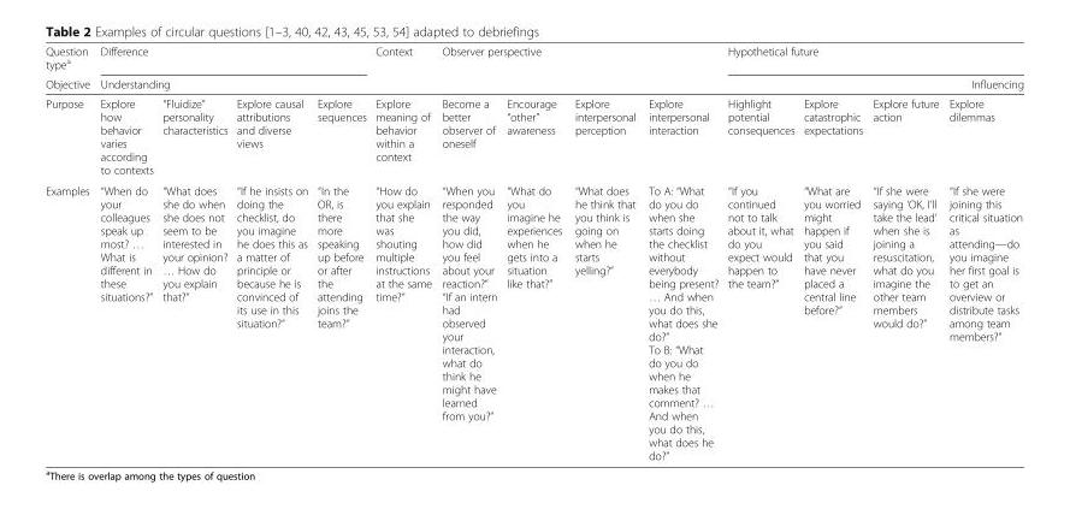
<table><thead><tr><td rowspan="3">Question type<sup>a</sup> Objective Purpose</td><td colspan="4">Difference</td><td>Context</td><td colspan="4">Observer perspective</td><td rowspan="2" colspan="4">Hypothetical future Influencing</td></tr><tr><td colspan="5">Understanding</td><td rowspan="2">Become a better observer of oneself</td><td rowspan="2">Encourage “other” awareness</td><td rowspan="2">Explore interpersonal perception</td><td rowspan="2">Explore interpersonal interaction</td></tr><tr><td>Explore how behavior varies according to contexts</td><td>“Fluidize” personality characteristics</td><td>Explore causal attributions and diverse views</td><td>Explore sequences</td><td>Explore meaning of behavior within a context</td><td>Highlight potential consequences</td><td>Explore catastrophic expectations</td><td>Explore future action</td><td>Explore dilemmas</td></tr></thead><tbody><tr><td>Examples</td><td>“When do your colleagues speak up most? … What is different in these situations?”</td><td>“What does she do when she does not seem to be interested in your opinion? … How do you explain that?”</td><td>“If he insists on doing the checklist, do you imagine he does this as a matter of principle or because he is convinced of its use in this situation?”</td><td>“In the OR, is there more speaking up before or after the attending joins the team?”</td><td>“How do you explain that she was shouting multiple instructions at the same time?”</td><td>“When you responded the way you did, how did you feel about your reaction?” “If an intern had observed your interaction, what do think he might have learned from you?”</td><td>“What do you imagine he experiences when he gets into a situation like that?”</td><td>“What does he think that you think is going on when he starts yelling?”</td><td>To A: “What do you do when she starts doing the checklist without everybody being present? … And when you do this, what does she do?” To B: “What do you do when he makes that comment? … And when you do this, what does he do?”</td><td>“If you continued not to talk about it, what do you expect would happen to the team?”</td><td>“What are you worried might happen if you said that you have never placed a central line before?”</td><td>“If she were saying ‘OK, I’ll take the lead’ when she is joining a resuscitation, what do you imagine the other team members would do?”</td><td>“If she were joining this critical situation as attending—do you imagine her first goal is to get an overview or distribute tasks among team members?”</td></tr></tbody></table>